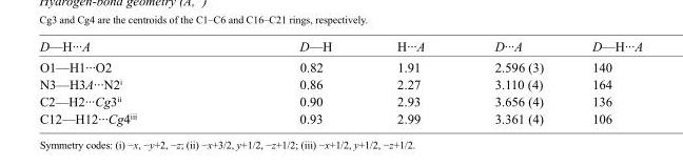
<table><tbody><tr><td>D—H···A</td><td>D—H</td><td>H···A</td><td>D···A</td><td>D—H···A</td></tr><tr><td>O1—H1···O2</td><td>0.82</td><td>1.91</td><td>2.596 (3)</td><td>140</td></tr><tr><td>N3—H3A···N2<sup>i</sup></td><td>0.86</td><td>2.27</td><td>3.110 (4)</td><td>164</td></tr><tr><td>C2—H2···Cg3<sup>ii</sup></td><td>0.90</td><td>2.93</td><td>3.656 (4)</td><td>136</td></tr><tr><td>C12—H12···Cg4<sup>iii</sup></td><td>0.93</td><td>2.99</td><td>3.361 (4)</td><td>106</td></tr></tbody></table>